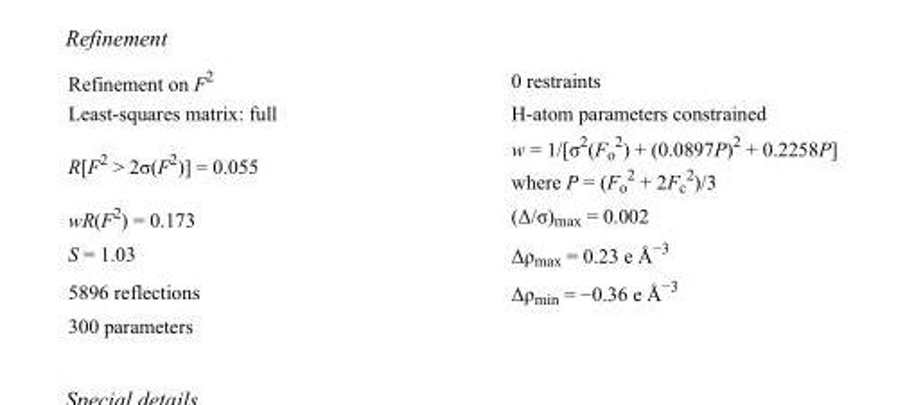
<table><tbody><tr><td>Refinement on F<sup>2</sup></td><td>0 restraints</td></tr><tr><td>Least-squares matrix: full</td><td>H-atom parameters constrained</td></tr><tr><td>R[F<sup>2</sup> &gt; 2σ(F<sup>2</sup>)] = 0.055</td><td>w = 1/[σ<sup>2</sup>(F<sub>o</sub> <sup>2</sup>) + (0.0897P)<sup>2</sup> + 0.2258P] where P = (F<sub>o</sub> <sup>2</sup> + 2F<sub>c</sub> <sup>2</sup>)/3</td></tr><tr><td>wR(F<sup>2</sup>) = 0.173</td><td>(Δ/σ)<sub>max</sub> = 0.002</td></tr><tr><td>S = 1.03</td><td>Δρ<sub>max</sub> = 0.23 e Å<sup>−3</sup></td></tr><tr><td>5896 reflections</td><td>Δρ<sub>min</sub> = −0.36 e Å<sup>−3</sup></td></tr><tr><td>300 parameters</td><td></td></tr></tbody></table>